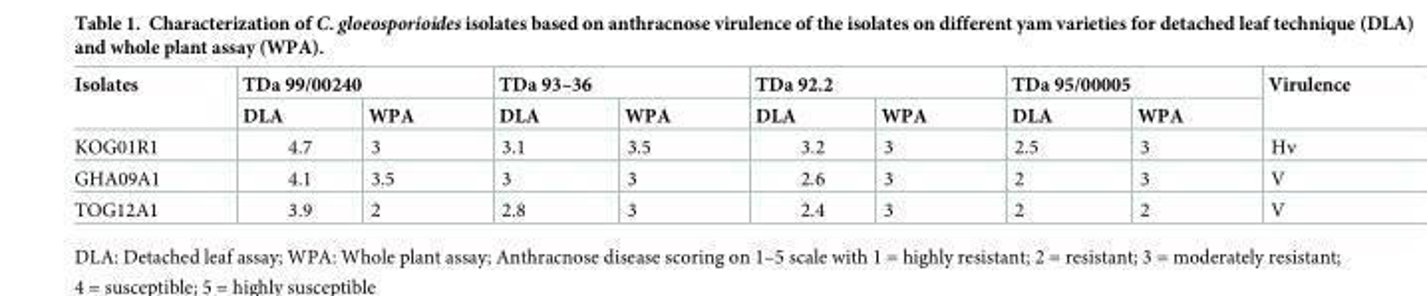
<table><thead><tr><td rowspan="2">Isolates</td><td colspan="2">TDa 99/00240</td><td colspan="2">TDa 93–36</td><td colspan="2">TDa 92.2</td><td colspan="2">TDa 95/00005</td><td rowspan="2">Virulence</td></tr><tr><td>DLA</td><td>WPA</td><td>DLA</td><td>WPA</td><td>DLA</td><td>WPA</td><td>DLA</td><td>WPA</td></tr></thead><tbody><tr><td>KOG01R1</td><td>4.7</td><td>3</td><td>3.1</td><td>3.5</td><td>3.2</td><td>3</td><td>2.5</td><td>3</td><td>Hv</td></tr><tr><td>GHA09A1</td><td>4.1</td><td>3.5</td><td>3</td><td>3</td><td>2.6</td><td>3</td><td>2</td><td>3</td><td>V</td></tr><tr><td>TOG12A1</td><td>3.9</td><td>2</td><td>2.8</td><td>3</td><td>2.4</td><td>3</td><td>2</td><td>2</td><td>V</td></tr></tbody></table>